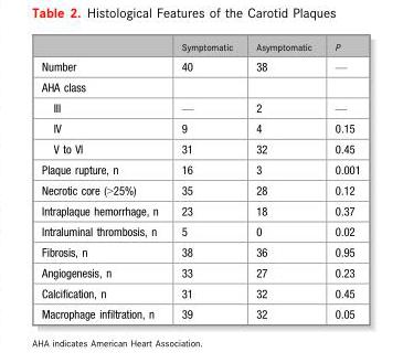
<table><thead><tr><td></td><td>Symptomatic</td><td>Asymptomatic</td><td>P</td></tr></thead><tbody><tr><td>Number</td><td>40</td><td>38</td><td>—</td></tr><tr><td colspan="4">AHA class</td></tr><tr><td>III</td><td>—</td><td>2</td><td>—</td></tr><tr><td>IV</td><td>9</td><td>4</td><td>0.15</td></tr><tr><td>V to VI</td><td>31</td><td>32</td><td>0.45</td></tr><tr><td>Plaque rupture, n</td><td>16</td><td>3</td><td>0.001</td></tr><tr><td>Necrotic core (&gt;25%)</td><td>35</td><td>28</td><td>0.12</td></tr><tr><td>Intraplaque hemorrhage, n</td><td>23</td><td>18</td><td>0.37</td></tr><tr><td>Intraluminal thrombosis, n</td><td>5</td><td>0</td><td>0.02</td></tr><tr><td>Fibrosis, n</td><td>38</td><td>36</td><td>0.95</td></tr><tr><td>Angiogenesis, n</td><td>33</td><td>27</td><td>0.23</td></tr><tr><td>Calcification, n</td><td>31</td><td>32</td><td>0.45</td></tr><tr><td>Macrophage infiltration, n</td><td>39</td><td>32</td><td>0.05</td></tr></tbody></table>